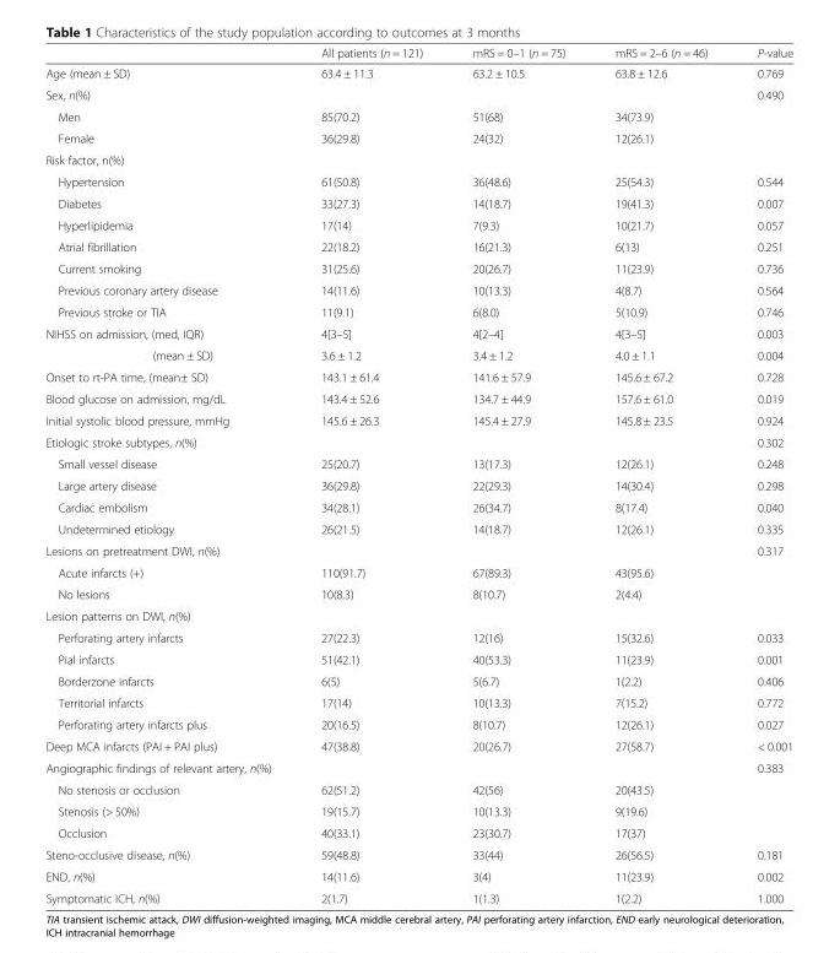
<table><thead><tr><td></td><td>All patients (n = 121)</td><td>mRS = 0–1 (n = 75)</td><td>mRS = 2–6 (n = 46)</td><td>P-value</td></tr></thead><tbody><tr><td>Age (mean ± SD)</td><td>63.4 ± 11.3</td><td>63.2 ± 10.5</td><td>63.8 ± 12.6</td><td>0.769</td></tr><tr><td>Sex, n(%)</td><td></td><td></td><td></td><td>0.490</td></tr><tr><td>Men</td><td>85(70.2)</td><td>51(68)</td><td>34(73.9)</td><td></td></tr><tr><td>Female</td><td>36(29.8)</td><td>24(32)</td><td>12(26.1)</td><td></td></tr><tr><td colspan="5">Risk factor, n(%)</td></tr><tr><td>Hypertension</td><td>61(50.8)</td><td>36(48.6)</td><td>25(54.3)</td><td>0.544</td></tr><tr><td>Diabetes</td><td>33(27.3)</td><td>14(18.7)</td><td>19(41.3)</td><td>0.007</td></tr><tr><td>Hyperlipidemia</td><td>17(14)</td><td>7(9.3)</td><td>10(21.7)</td><td>0.057</td></tr><tr><td>Atrial fibrillation</td><td>22(18.2)</td><td>16(21.3)</td><td>6(13)</td><td>0.251</td></tr><tr><td>Current smoking</td><td>31(25.6)</td><td>20(26.7)</td><td>11(23.9)</td><td>0.736</td></tr><tr><td>Previous coronary artery disease</td><td>14(11.6)</td><td>10(13.3)</td><td>4(8.7)</td><td>0.564</td></tr><tr><td>Previous stroke or TIA</td><td>11(9.1)</td><td>6(8.0)</td><td>5(10.9)</td><td>0.746</td></tr><tr><td>NIHSS on admission, (med, IQR)</td><td>4[3–5]</td><td>4[2–4]</td><td>4[3–5]</td><td>0.003</td></tr><tr><td>(mean ± SD)</td><td>3.6 ± 1.2</td><td>3.4 ± 1.2</td><td>4.0 ± 1.1</td><td>0.004</td></tr><tr><td>Onset to rt-PA time, (mean± SD)</td><td>143.1 ± 61.4</td><td>141.6 ± 57.9</td><td>145.6 ± 67.2</td><td>0.728</td></tr><tr><td>Blood glucose on admission, mg/dL</td><td>143.4 ± 52.6</td><td>134.7 ± 44.9</td><td>157.6 ± 61.0</td><td>0.019</td></tr><tr><td>Initial systolic blood pressure, mmHg</td><td>145.6 ± 26.3</td><td>145.4 ± 27.9</td><td>145.8 ± 23.5</td><td>0.924</td></tr><tr><td>Etiologic stroke subtypes, n(%)</td><td></td><td></td><td></td><td>0.302</td></tr><tr><td>Small vessel disease</td><td>25(20.7)</td><td>13(17.3)</td><td>12(26.1)</td><td>0.248</td></tr><tr><td>Large artery disease</td><td>36(29.8)</td><td>22(29.3)</td><td>14(30.4)</td><td>0.298</td></tr><tr><td>Cardiac embolism</td><td>34(28.1)</td><td>26(34.7)</td><td>8(17.4)</td><td>0.040</td></tr><tr><td>Undetermined etiology</td><td>26(21.5)</td><td>14(18.7)</td><td>12(26.1)</td><td>0.335</td></tr><tr><td>Lesions on pretreatment DWI, n(%)</td><td></td><td></td><td></td><td>0.317</td></tr><tr><td>Acute infarcts (+)</td><td>110(91.7)</td><td>67(89.3)</td><td>43(95.6)</td><td></td></tr><tr><td>No lesions</td><td>10(8.3)</td><td>8(10.7)</td><td>2(4.4)</td><td></td></tr><tr><td colspan="5">Lesion patterns on DWI, n(%)</td></tr><tr><td>Perforating artery infarcts</td><td>27(22.3)</td><td>12(16)</td><td>15(32.6)</td><td>0.033</td></tr><tr><td>Pial infarcts</td><td>51(42.1)</td><td>40(53.3)</td><td>11(23.9)</td><td>0.001</td></tr><tr><td>Borderzone infarcts</td><td>6(5)</td><td>5(6.7)</td><td>1(2.2)</td><td>0.406</td></tr><tr><td>Territorial infarcts</td><td>17(14)</td><td>10(13.3)</td><td>7(15.2)</td><td>0.772</td></tr><tr><td>Perforating artery infarcts plus</td><td>20(16.5)</td><td>8(10.7)</td><td>12(26.1)</td><td>0.027</td></tr><tr><td>Deep MCA infarcts (PAI + PAI plus)</td><td>47(38.8)</td><td>20(26.7)</td><td>27(58.7)</td><td>&lt; 0.001</td></tr><tr><td>Angiographic findings of relevant artery, n(%)</td><td></td><td></td><td></td><td>0.383</td></tr><tr><td>No stenosis or occlusion</td><td>62(51.2)</td><td>42(56)</td><td>20(43.5)</td><td></td></tr><tr><td>Stenosis (&gt; 50%)</td><td>19(15.7)</td><td>10(13.3)</td><td>9(19.6)</td><td></td></tr><tr><td>Occlusion</td><td>40(33.1)</td><td>23(30.7)</td><td>17(37)</td><td></td></tr><tr><td>Steno-occlusive disease, n(%)</td><td>59(48.8)</td><td>33(44)</td><td>26(56.5)</td><td>0.181</td></tr><tr><td>END, n(%)</td><td>14(11.6)</td><td>3(4)</td><td>11(23.9)</td><td>0.002</td></tr><tr><td>Symptomatic ICH, n(%)</td><td>2(1.7)</td><td>1(1.3)</td><td>1(2.2)</td><td>1.000</td></tr></tbody></table>